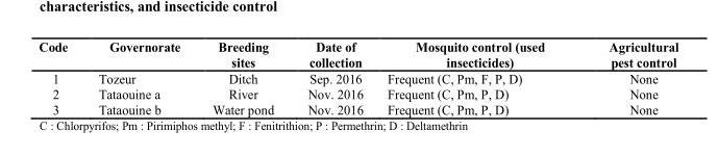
<table><thead><tr><td>Code</td><td>Governorate</td><td>Breeding sites</td><td>Date of collection</td><td>Mosquito control (used insecticides)</td><td>Agricultural pest control</td></tr></thead><tbody><tr><td>1</td><td>Tozeur</td><td>Ditch</td><td>Sep. 2016</td><td>Frequent (C, Pm, F, P, D)</td><td>None</td></tr><tr><td>2</td><td>Tataouine a</td><td>River</td><td>Nov. 2016</td><td>Frequent (C, Pm, P, D)</td><td>None</td></tr><tr><td>3</td><td>Tataouine b</td><td>Water pond</td><td>Nov. 2016</td><td>Frequent (C, Pm, P, D)</td><td>None</td></tr></tbody></table>